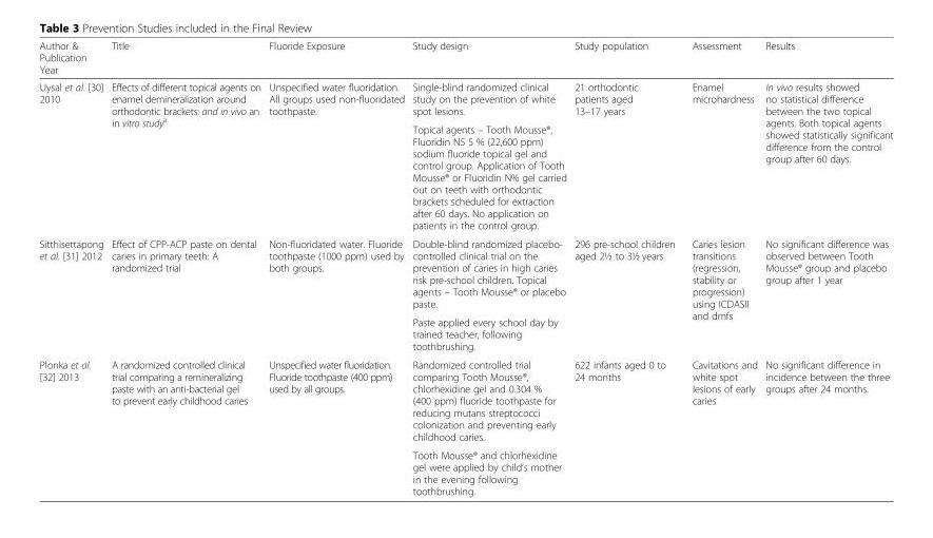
<table><thead><tr><td>Author &amp; Publication Year</td><td>Title</td><td>Fluoride Exposure</td><td>Study design</td><td>Study population</td><td>Assessment</td><td>Results</td></tr></thead><tbody><tr><td rowspan="2">Uysal et al. [30] 2010</td><td rowspan="2">Effects of different topical agents on enamel demineralization around orthodontic brackets: and in vivo an in vitro study<sup>a</sup></td><td rowspan="2">Unspecified water fluoridation. All groups used non-fluoridated toothpaste.</td><td>Single-blind randomized clinical study on the prevention of white spot lesions.</td><td rowspan="2">21 orthodontic patients aged 13–17 years</td><td rowspan="2">Enamel microhardness</td><td rowspan="2">In vivo results showed no statistical difference between the two topical agents. Both topical agents showed statistically significant difference from the control group after 60 days.</td></tr><tr><td>Topical agents – Tooth Mousse®, Fluoridin N5 5 % (22,600 ppm) sodium fluoride topical gel and control group. Application of Tooth Mousse® or Fluoridin N% gel carried out on teeth with orthodontic brackets scheduled for extraction after 60 days. No application on patients in the control group.</td></tr><tr><td rowspan="2">Sitthisettapong et al. [31] 2012</td><td rowspan="2">Effect of CPP-ACP paste on dental caries in primary teeth: A randomized trial</td><td rowspan="2">Non-fluoridated water. Fluoride toothpaste (1000 ppm) used by both groups.</td><td>Double-blind randomized placebo- controlled clinical trial on the prevention of caries in high caries risk pre-school children. Topical agents – Tooth Mousse® or placebo paste.</td><td rowspan="2">296 pre-school children aged 2½ to 3½ years</td><td rowspan="2">Caries lesion transitions (regression, stability or progression) using ICDASII and dmfs</td><td rowspan="2">No significant difference was observed between Tooth Mousse® group and placebo group after 1 year</td></tr><tr><td>Paste applied every school day by trained teacher, following toothbrushing.</td></tr><tr><td rowspan="2">Plonka et al. [32] 2013</td><td rowspan="2">A randomized controlled clinical trial comparing a remineralizing paste with an anti-bacterial gel to prevent early childhood caries</td><td rowspan="2">Unspecified water fluoridation. Fluoride toothpaste (400 ppm) used by all groups.</td><td>Randomized controlled trial comparing Tooth Mousse®, chlorhexidine gel and 0.304 % (400 ppm) fluoride toothpaste for reducing mutans streptococci colonization and preventing early childhood caries.</td><td rowspan="2">622 infants aged 0 to 24 months</td><td rowspan="2">Cavitations and white spot lesions of early caries</td><td rowspan="2">No significant difference in incidence between the three groups after 24 months.</td></tr><tr><td>Tooth Mousse® and chlorhexidine gel were applied by child’s mother in the evening following toothbrushing.</td></tr></tbody></table>